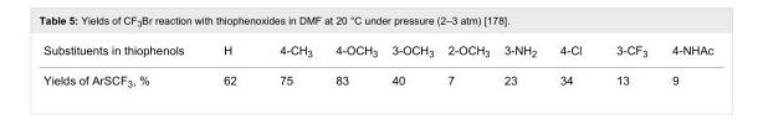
<table><tbody><tr><td>Substituents in thiophenols</td><td>H</td><td>4-CH<sub>3</sub></td><td>4-OCH<sub>3</sub></td><td>3-OCH<sub>3</sub></td><td>2-OCH<sub>3</sub></td><td>3-NH<sub>2</sub></td><td>4-Cl</td><td>3-CF<sub>3</sub></td><td>4-NHAc</td></tr><tr><td>Yields of ArSCF<sub>3</sub>, %</td><td>62</td><td>75</td><td>83</td><td>40</td><td>7</td><td>23</td><td>34</td><td>13</td><td>9</td></tr></tbody></table>